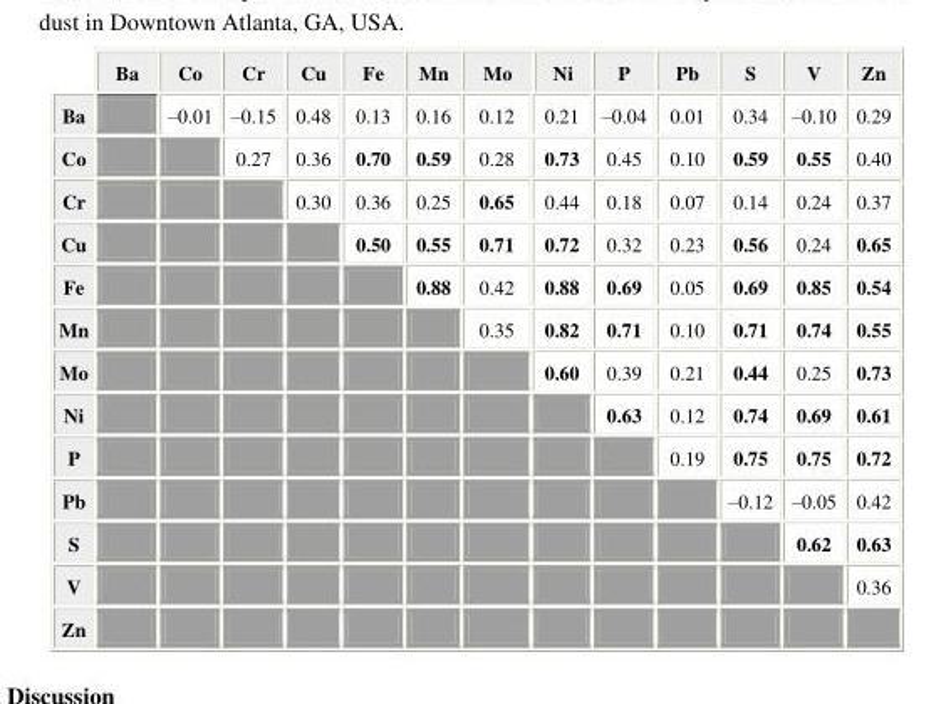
<table><thead><tr><td></td><td>Ba</td><td>Co</td><td>Cr</td><td>Cu</td><td>Fe</td><td>Mn</td><td>Mo</td><td>Ni</td><td>P</td><td>Pb</td><td>S</td><td>V</td><td>Zn</td></tr></thead><tbody><tr><td>Ba</td><td></td><td>–0.01</td><td>–0.15</td><td>0.48</td><td>0.13</td><td>0.16</td><td>0.12</td><td>0.21</td><td>–0.04</td><td>0.01</td><td>0.34</td><td>–0.10</td><td>0.29</td></tr><tr><td>Co</td><td></td><td></td><td>0.27</td><td>0.36</td><td>0.70</td><td>0.59</td><td>0.28</td><td>0.73</td><td>0.45</td><td>0.10</td><td>0.59</td><td>0.55</td><td>0.40</td></tr><tr><td>Cr</td><td></td><td></td><td></td><td>0.30</td><td>0.36</td><td>0.25</td><td>0.65</td><td>0.44</td><td>0.18</td><td>0.07</td><td>0.14</td><td>0.24</td><td>0.37</td></tr><tr><td>Cu</td><td></td><td></td><td></td><td></td><td>0.50</td><td>0.55</td><td>0.71</td><td>0.72</td><td>0.32</td><td>0.23</td><td>0.56</td><td>0.24</td><td>0.65</td></tr><tr><td>Fe</td><td></td><td></td><td></td><td></td><td></td><td>0.88</td><td>0.42</td><td>0.88</td><td>0.69</td><td>0.05</td><td>0.69</td><td>0.85</td><td>0.54</td></tr><tr><td>Mn</td><td></td><td></td><td></td><td></td><td></td><td></td><td>0.35</td><td>0.82</td><td>0.71</td><td>0.10</td><td>0.71</td><td>0.74</td><td>0.55</td></tr><tr><td>Mo</td><td></td><td></td><td></td><td></td><td></td><td></td><td></td><td>0.60</td><td>0.39</td><td>0.21</td><td>0.44</td><td>0.25</td><td>0.73</td></tr><tr><td>Ni</td><td></td><td></td><td></td><td></td><td></td><td></td><td></td><td></td><td>0.63</td><td>0.12</td><td>0.74</td><td>0.69</td><td>0.61</td></tr><tr><td>P</td><td></td><td></td><td></td><td></td><td></td><td></td><td></td><td></td><td></td><td>0.19</td><td>0.75</td><td>0.75</td><td>0.72</td></tr><tr><td>Pb</td><td></td><td></td><td></td><td></td><td></td><td></td><td></td><td></td><td></td><td></td><td>–0.12</td><td>–0.05</td><td>0.42</td></tr><tr><td>S</td><td></td><td></td><td></td><td></td><td></td><td></td><td></td><td></td><td></td><td></td><td></td><td>0.62</td><td>0.63</td></tr><tr><td>V</td><td></td><td></td><td></td><td></td><td></td><td></td><td></td><td></td><td></td><td></td><td></td><td></td><td>0.36</td></tr><tr><td>Zn</td><td></td><td></td><td></td><td></td><td></td><td></td><td></td><td></td><td></td><td></td><td></td><td></td><td></td></tr></tbody></table>